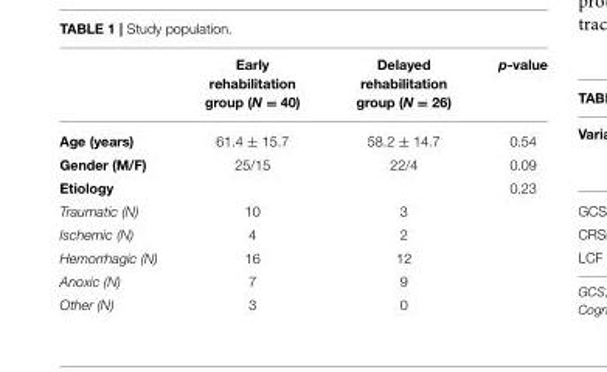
<table><thead><tr><td></td><td>Early rehabilitation group (N = 40)</td><td>Delayed rehabilitation group (N = 26)</td><td>p-value</td></tr></thead><tbody><tr><td>Age (years)</td><td>61.4 ± 15.7</td><td>58.2 ± 14.7</td><td>0.54</td></tr><tr><td>Gender (M/F)</td><td>25/15</td><td>22/4</td><td>0.09</td></tr><tr><td>Etiology</td><td></td><td></td><td>0.23</td></tr><tr><td>Traumatic (N)</td><td>10</td><td>3</td><td></td></tr><tr><td>Ischemic (N)</td><td>4</td><td>2</td><td></td></tr><tr><td>Hemorrhagic (N)</td><td>16</td><td>12</td><td></td></tr><tr><td>Anoxic (N)</td><td>7</td><td>9</td><td></td></tr><tr><td>Other (N)</td><td>3</td><td>0</td><td></td></tr></tbody></table>